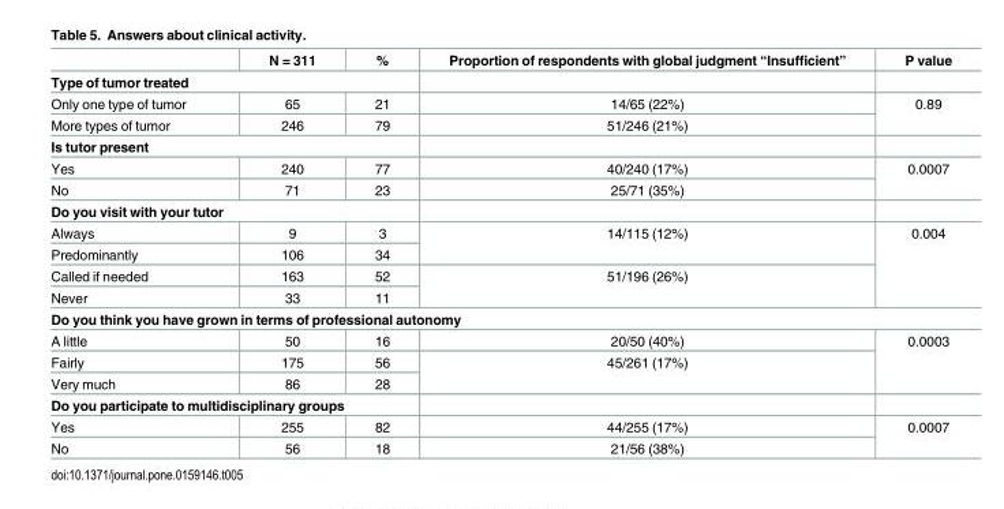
<table><thead><tr><td></td><td>N = 311</td><td>%</td><td>Proportion of respondents with global judgment “Insufficient”</td><td>P value</td></tr></thead><tbody><tr><td colspan="5">Type of tumor treated</td></tr><tr><td>Only one type of tumor</td><td>65</td><td>21</td><td>14/65 (22%)</td><td rowspan="2">0.89</td></tr><tr><td>More types of tumor</td><td>246</td><td>79</td><td>51/246 (21%)</td></tr><tr><td colspan="5">Is tutor present</td></tr><tr><td>Yes</td><td>240</td><td>77</td><td>40/240 (17%)</td><td rowspan="2">0.0007</td></tr><tr><td>No</td><td>71</td><td>23</td><td>25/71 (35%)</td></tr><tr><td colspan="5">Do you visit with your tutor</td></tr><tr><td>Always</td><td>9</td><td>3</td><td rowspan="2">14/115 (12%)</td><td rowspan="4">0.004</td></tr><tr><td>Predominantly</td><td>106</td><td>34</td></tr><tr><td>Called if needed</td><td>163</td><td>52</td><td rowspan="2">51/196 (26%)</td></tr><tr><td>Never</td><td>33</td><td>11</td></tr><tr><td colspan="5">Do you think you have grown in terms of professional autonomy</td></tr><tr><td>A little</td><td>50</td><td>16</td><td>20/50 (40%)</td><td rowspan="3">0.0003</td></tr><tr><td>Fairly</td><td>175</td><td>56</td><td rowspan="2">45/261 (17%)</td></tr><tr><td>Very much</td><td>86</td><td>28</td></tr><tr><td colspan="5">Do you participate to multidisciplinary groups</td></tr><tr><td>Yes</td><td>255</td><td>82</td><td>44/255 (17%)</td><td rowspan="2">0.0007</td></tr><tr><td>No</td><td>56</td><td>18</td><td>21/56 (38%)</td></tr></tbody></table>